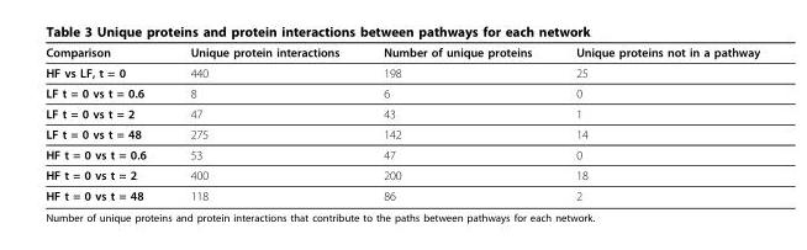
<table><thead><tr><td>Comparison</td><td>Unique protein interactions</td><td>Number of unique proteins</td><td>Unique proteins not in a pathway</td></tr></thead><tbody><tr><td>HF vs LF, t = 0</td><td>440</td><td>198</td><td>25</td></tr><tr><td>LF t = 0 vs t = 0.6</td><td>8</td><td>6</td><td>0</td></tr><tr><td>LF t = 0 vs t = 2</td><td>47</td><td>43</td><td>1</td></tr><tr><td>LF t = 0 vs t = 48</td><td>275</td><td>142</td><td>14</td></tr><tr><td>HF t = 0 vs t = 0.6</td><td>53</td><td>47</td><td>0</td></tr><tr><td>HF t = 0 vs t = 2</td><td>400</td><td>200</td><td>18</td></tr><tr><td>HF t = 0 vs t = 48</td><td>118</td><td>86</td><td>2</td></tr></tbody></table>